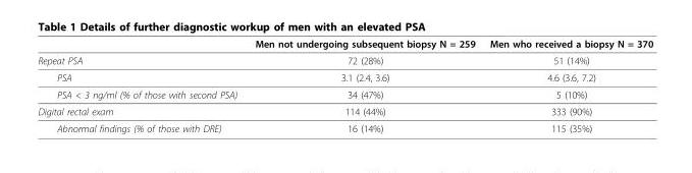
<table><thead><tr><td></td><td>Men not undergoing subsequent biopsy N = 259</td><td>Men who received a biopsy N = 370</td></tr></thead><tbody><tr><td>Repeat PSA</td><td>72 (28%)</td><td>51 (14%)</td></tr><tr><td>PSA</td><td>3.1 (2.4, 3.6)</td><td>4.6 (3.6, 7.2)</td></tr><tr><td>PSA &lt; 3 ng/ml (% of those with second PSA)</td><td>34 (47%)</td><td>5 (10%)</td></tr><tr><td>Digital rectal exam</td><td>114 (44%)</td><td>333 (90%)</td></tr><tr><td>Abnormal findings (% of those with DRE)</td><td>16 (14%)</td><td>115 (35%)</td></tr></tbody></table>